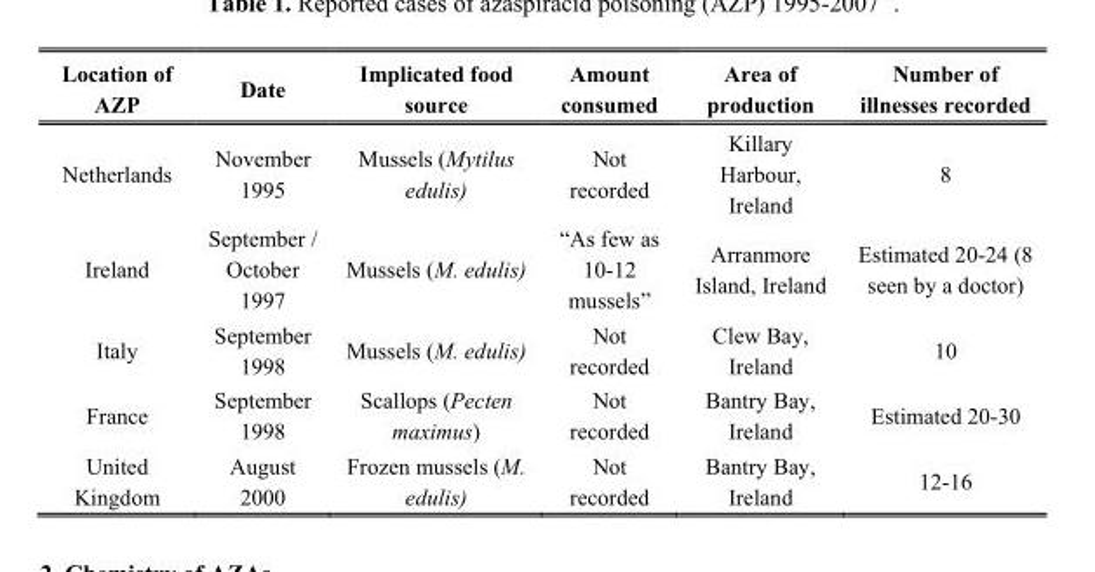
<table><thead><tr><td>Location of AZP</td><td>Date</td><td>Implicated food source</td><td>Amount consumed</td><td>Area of production</td><td>Number of illnesses recorded</td></tr></thead><tbody><tr><td>Netherlands</td><td>November 1995</td><td>Mussels (Mytilus edulis)</td><td>Not recorded</td><td>Killary Harbour, Ireland</td><td>8</td></tr><tr><td>Ireland</td><td>September / October 1997</td><td>Mussels (M. edulis)</td><td>“As few as 10-12 mussels”</td><td>Arranmore Island, Ireland</td><td>Estimated 20-24 (8 seen by a doctor)</td></tr><tr><td>Italy</td><td>September 1998</td><td>Mussels (M. edulis)</td><td>Not recorded</td><td>Clew Bay, Ireland</td><td>10</td></tr><tr><td>France</td><td>September 1998</td><td>Scallops (Pecten maximus)</td><td>Not recorded</td><td>Bantry Bay, Ireland</td><td>Estimated 20-30</td></tr><tr><td>United Kingdom</td><td>August 2000</td><td>Frozen mussels (M. edulis)</td><td>Not recorded</td><td>Bantry Bay, Ireland</td><td>12-16</td></tr></tbody></table>